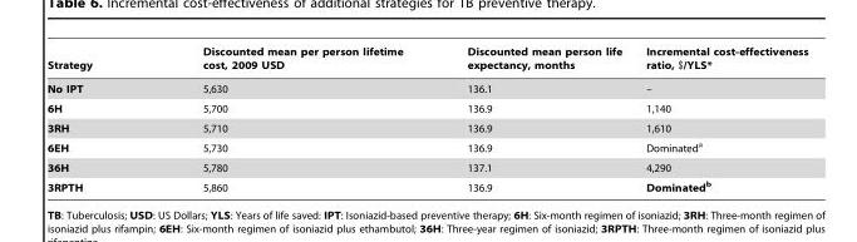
<table><thead><tr><td>Strategy</td><td>Discounted mean per person lifetime cost, 2009 USD</td><td>Discounted mean person life expectancy, months</td><td>Incremental cost-effectiveness ratio, $/YLS*</td></tr></thead><tbody><tr><td>No IPT</td><td>5,630</td><td>136.1</td><td>–</td></tr><tr><td>6H</td><td>5,700</td><td>136.9</td><td>1,140</td></tr><tr><td>3RH</td><td>5,710</td><td>136.9</td><td>1,610</td></tr><tr><td>6EH</td><td>5,730</td><td>136.9</td><td>Dominated<sup>a</sup></td></tr><tr><td>36H</td><td>5,780</td><td>137.1</td><td>4,290</td></tr><tr><td>3RPTH</td><td>5,860</td><td>136.9</td><td>Dominatedb</td></tr></tbody></table>